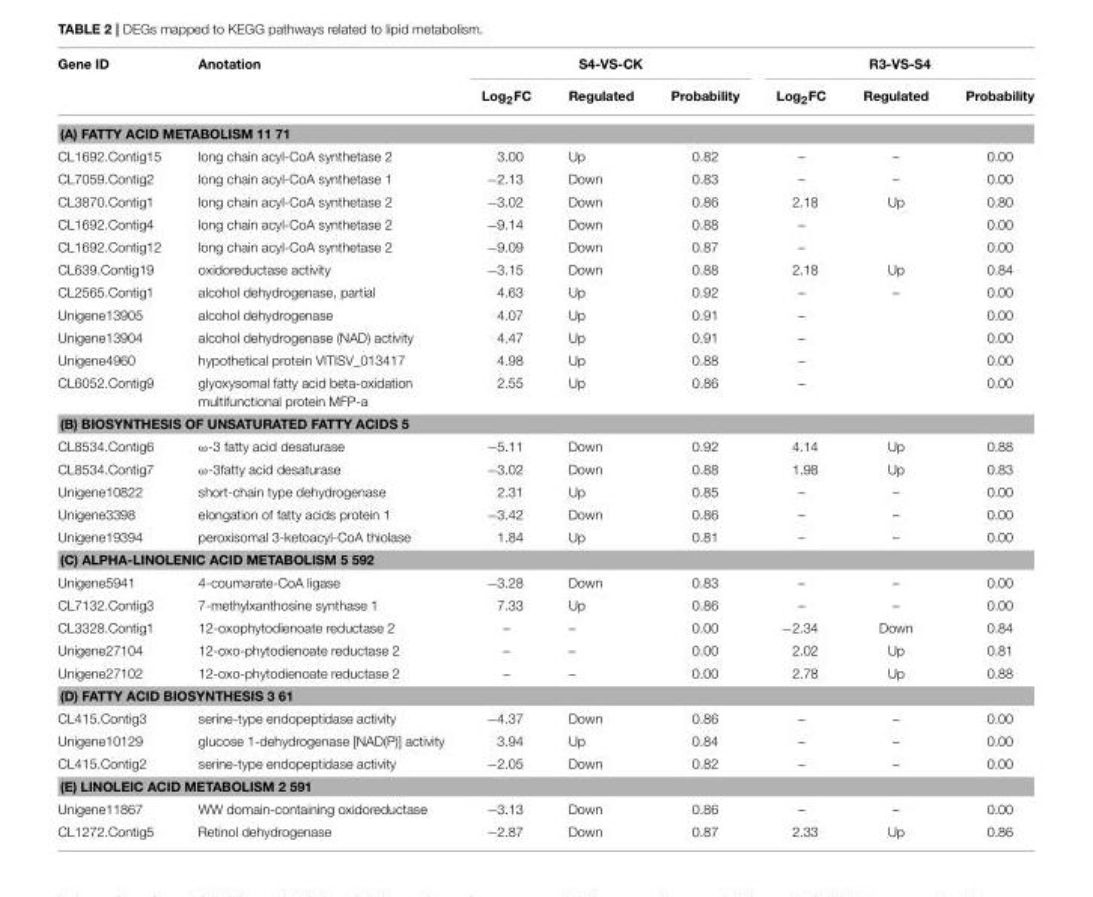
<table><thead><tr><td rowspan="2">Gene ID</td><td rowspan="2">Anotation</td><td colspan="3">S4-VS-CK</td><td colspan="3">R3-VS-S4</td></tr><tr><td>Log<sub>2</sub>FC</td><td>Regulated</td><td>Probability</td><td>Log<sub>2</sub>FC</td><td>Regulated</td><td>Probability</td></tr></thead><tbody><tr><td colspan="8">(A) FATTY ACID METABOLISM 11 71</td></tr><tr><td>CL1692.Contig15</td><td>long chain acyl-CoA synthetase 2</td><td>3.00</td><td>Up</td><td>0.82</td><td>–</td><td>–</td><td>0.00</td></tr><tr><td>CL7059.Contig2</td><td>long chain acyl-CoA synthetase 1</td><td>−2.13</td><td>Down</td><td>0.83</td><td>–</td><td>–</td><td>0.00</td></tr><tr><td>CL3870.Contig1</td><td>long chain acyl-CoA synthetase 2</td><td>−3.02</td><td>Down</td><td>0.86</td><td>2.18</td><td>Up</td><td>0.80</td></tr><tr><td>CL1692.Contig4</td><td>long chain acyl-CoA synthetase 2</td><td>−9.14</td><td>Down</td><td>0.88</td><td>–</td><td></td><td>0.00</td></tr><tr><td>CL1692.Contig12</td><td>long chain acyl-CoA synthetase 2</td><td>−9.09</td><td>Down</td><td>0.87</td><td>–</td><td></td><td>0.00</td></tr><tr><td>CL639.Contig19</td><td>oxidoreductase activity</td><td>−3.15</td><td>Down</td><td>0.88</td><td>2.18</td><td>Up</td><td>0.84</td></tr><tr><td>CL2565.Contig1</td><td>alcohol dehydrogenase, partial</td><td>4.63</td><td>Up</td><td>0.92</td><td>–</td><td>–</td><td>0.00</td></tr><tr><td>Unigene13905</td><td>alcohol dehydrogenase</td><td>4.07</td><td>Up</td><td>0.91</td><td>–</td><td></td><td>0.00</td></tr><tr><td>Unigene13904</td><td>alcohol dehydrogenase (NAD) activity</td><td>4.47</td><td>Up</td><td>0.91</td><td>–</td><td></td><td>0.00</td></tr><tr><td>Unigene4960</td><td>hypothetical protein VITISV_013417</td><td>4.98</td><td>Up</td><td>0.88</td><td>–</td><td></td><td>0.00</td></tr><tr><td>CL6052.Contig9</td><td>glyoxysomal fatty acid beta-oxidation multifunctional protein MFP-a</td><td>2.55</td><td>Up</td><td>0.86</td><td>–</td><td></td><td>0.00</td></tr><tr><td colspan="8">(B) BIOSYNTHESIS OF UNSATURATED FATTY ACIDS 5</td></tr><tr><td>CL8534.Contig6</td><td>ω-3 fatty acid desaturase</td><td>−5.11</td><td>Down</td><td>0.92</td><td>4.14</td><td>Up</td><td>0.88</td></tr><tr><td>CL8534.Contig7</td><td>ω-3fatty acid desaturase</td><td>−3.02</td><td>Down</td><td>0.88</td><td>1.98</td><td>Up</td><td>0.83</td></tr><tr><td>Unigene10822</td><td>short-chain type dehydrogenase</td><td>2.31</td><td>Up</td><td>0.85</td><td>–</td><td>–</td><td>0.00</td></tr><tr><td>Unigene3398</td><td>elongation of fatty acids protein 1</td><td>−3.42</td><td>Down</td><td>0.86</td><td>–</td><td>–</td><td>0.00</td></tr><tr><td>Unigene19394</td><td>peroxisomal 3-ketoacyl-CoA thiolase</td><td>1.84</td><td>Up</td><td>0.81</td><td>–</td><td>–</td><td>0.00</td></tr><tr><td colspan="8">(C) ALPHA-LINOLENIC ACID METABOLISM 5 592</td></tr><tr><td>Unigene5941</td><td>4-coumarate-CoA ligase</td><td>−3.28</td><td>Down</td><td>0.83</td><td>–</td><td>–</td><td>0.00</td></tr><tr><td>CL7132.Contig3</td><td>7-methylxanthosine synthase 1</td><td>7.33</td><td>Up</td><td>0.86</td><td>–</td><td>–</td><td>0.00</td></tr><tr><td>CL3328.Contig1</td><td>12-oxophytodienoate reductase 2</td><td>–</td><td>–</td><td>0.00</td><td>−2.34</td><td>Down</td><td>0.84</td></tr><tr><td>Unigene27104</td><td>12-oxo-phytodienoate reductase 2</td><td>–</td><td>–</td><td>0.00</td><td>2.02</td><td>Up</td><td>0.81</td></tr><tr><td>Unigene27102</td><td>12-oxo-phytodienoate reductase 2</td><td>–</td><td>–</td><td>0.00</td><td>2.78</td><td>Up</td><td>0.88</td></tr><tr><td colspan="8">(D) FATTY ACID BIOSYNTHESIS 3 61</td></tr><tr><td>CL415.Contig3</td><td>serine-type endopeptidase activity</td><td>−4.37</td><td>Down</td><td>0.86</td><td>–</td><td>–</td><td>0.00</td></tr><tr><td>Unigene10129</td><td>glucose 1-dehydrogenase [NAD(P)] activity</td><td>3.94</td><td>Up</td><td>0.84</td><td>–</td><td>–</td><td>0.00</td></tr><tr><td>CL415.Contig2</td><td>serine-type endopeptidase activity</td><td>−2.05</td><td>Down</td><td>0.82</td><td>–</td><td>–</td><td>0.00</td></tr><tr><td colspan="8">(E) LINOLEIC ACID METABOLISM 2 591</td></tr><tr><td>Unigene11867</td><td>WW domain-containing oxidoreductase</td><td>−3.13</td><td>Down</td><td>0.86</td><td>–</td><td>–</td><td>0.00</td></tr><tr><td>CL1272.Contig5</td><td>Retinol dehydrogenase</td><td>−2.87</td><td>Down</td><td>0.87</td><td>2.33</td><td>Up</td><td>0.86</td></tr></tbody></table>